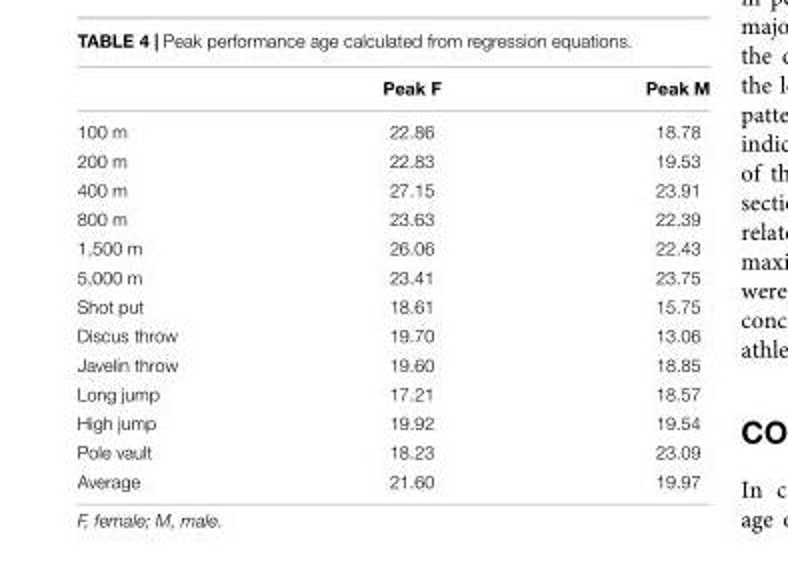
<table><thead><tr><td></td><td>Peak F</td><td>Peak M</td></tr></thead><tbody><tr><td>100 m</td><td>22.86</td><td>18.78</td></tr><tr><td>200 m</td><td>22.83</td><td>19.53</td></tr><tr><td>400 m</td><td>27.15</td><td>23.91</td></tr><tr><td>800 m</td><td>23.63</td><td>22.39</td></tr><tr><td>1,500 m</td><td>26.06</td><td>22.43</td></tr><tr><td>5,000 m</td><td>23.41</td><td>23.75</td></tr><tr><td>Shot put</td><td>18.61</td><td>15.75</td></tr><tr><td>Discus throw</td><td>19.70</td><td>13.06</td></tr><tr><td>Javelin throw</td><td>19.60</td><td>18.85</td></tr><tr><td>Long jump</td><td>17.21</td><td>18.57</td></tr><tr><td>High jump</td><td>19.92</td><td>19.54</td></tr><tr><td>Pole vault</td><td>18.23</td><td>23.09</td></tr><tr><td>Average</td><td>21.60</td><td>19.97</td></tr></tbody></table>